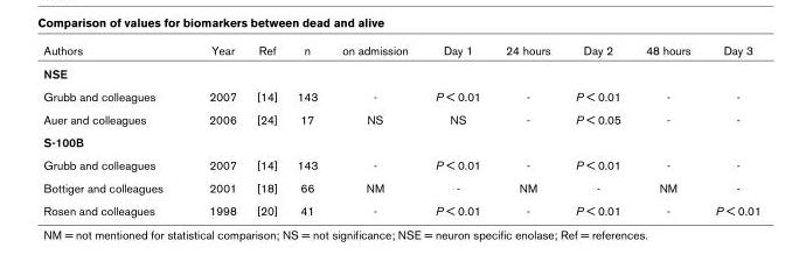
<table><thead><tr><td>Authors</td><td>Year</td><td>Ref</td><td>n</td><td>on admission</td><td>Day 1</td><td>24 hours</td><td>Day 2</td><td>48 hours</td><td>Day 3</td></tr></thead><tbody><tr><td colspan="10">NSE</td></tr><tr><td>Grubb and colleagues</td><td>2007</td><td>[14]</td><td>143</td><td>-</td><td>P &lt; 0.01</td><td>-</td><td>P &lt; 0.01</td><td>-</td><td>-</td></tr><tr><td>Auer and colleagues</td><td>2006</td><td>[24]</td><td>17</td><td>NS</td><td>NS</td><td>-</td><td>P &lt; 0.05</td><td>-</td><td>-</td></tr><tr><td colspan="10">S-100B</td></tr><tr><td>Grubb and colleagues</td><td>2007</td><td>[14]</td><td>143</td><td>-</td><td>P &lt; 0.01</td><td>-</td><td>P &lt; 0.01</td><td>-</td><td>-</td></tr><tr><td>Bottiger and colleagues</td><td>2001</td><td>[18]</td><td>66</td><td>NM</td><td>-</td><td>NM</td><td>-</td><td>NM</td><td>-</td></tr><tr><td>Rosen and colleagues</td><td>1998</td><td>[20]</td><td>41</td><td>-</td><td>P &lt; 0.01</td><td>-</td><td>P &lt; 0.01</td><td>-</td><td>P &lt; 0.01</td></tr></tbody></table>